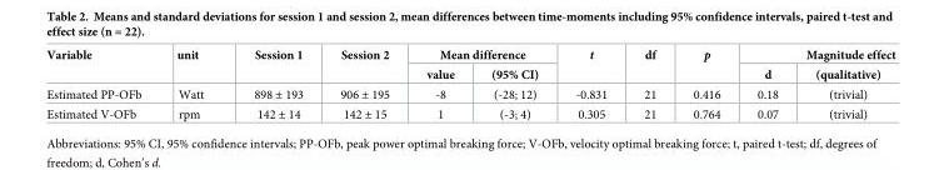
<table><thead><tr><td rowspan="2">Variable</td><td rowspan="2">unit</td><td rowspan="2">Session 1</td><td rowspan="2">Session 2</td><td colspan="2">Mean difference</td><td rowspan="2">t</td><td rowspan="2">df</td><td rowspan="2">p</td><td colspan="2">Magnitude effect</td></tr><tr><td>value</td><td>(95% CI)</td><td>d</td><td>(qualitative)</td></tr></thead><tbody><tr><td>Estimated PP-OFb</td><td>Watt</td><td>898 ± 193</td><td>906 ± 195</td><td>-8</td><td>(-28; 12)</td><td>-0.831</td><td>21</td><td>0.416</td><td>0.18</td><td>(trivial)</td></tr><tr><td>Estimated V-OFb</td><td>rpm</td><td>142 ± 14</td><td>142 ± 15</td><td>1</td><td>(-3; 4)</td><td>0.305</td><td>21</td><td>0.764</td><td>0.07</td><td>(trivial)</td></tr></tbody></table>